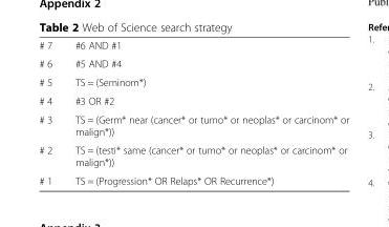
<table><tbody><tr><td># 7</td><td>#6 AND #1</td></tr><tr><td># 6</td><td>#5 AND #4</td></tr><tr><td># 5</td><td>TS = (Seminom*)</td></tr><tr><td># 4</td><td>#3 OR #2</td></tr><tr><td># 3</td><td>TS = (Germ* near (cancer* or tumo* or neoplas* or carcinom* or malign*))</td></tr><tr><td># 2</td><td>TS = (testi* same (cancer* or tumo* or neoplas* or carcinom* or malign*))</td></tr><tr><td># 1</td><td>TS = (Progression* OR Relaps* OR Recurrence*)</td></tr></tbody></table>